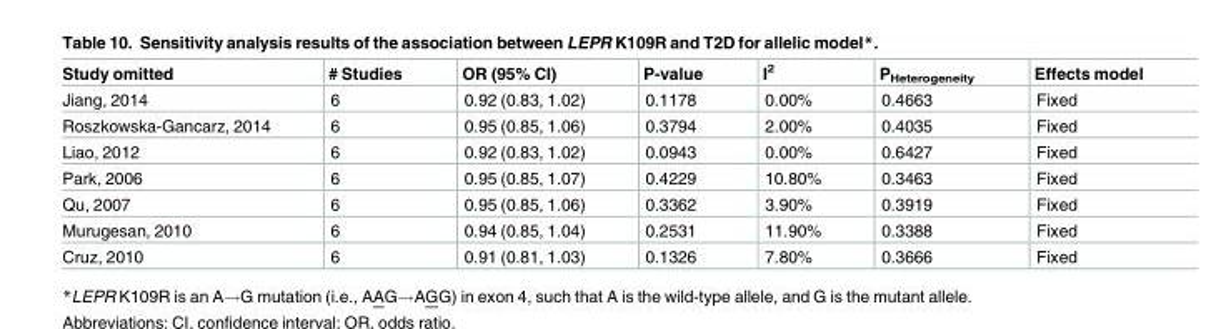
<table><thead><tr><td>Study omitted</td><td># Studies</td><td>OR (95% CI)</td><td>P-value</td><td>I<sup>2</sup></td><td>P<sub>Heterogeneity</sub></td><td>Effects model</td></tr></thead><tbody><tr><td>Jiang, 2014</td><td>6</td><td>0.92 (0.83, 1.02)</td><td>0.1178</td><td>0.00%</td><td>0.4663</td><td>Fixed</td></tr><tr><td>Roszkowska-Gancarz, 2014</td><td>6</td><td>0.95 (0.85, 1.06)</td><td>0.3794</td><td>2.00%</td><td>0.4035</td><td>Fixed</td></tr><tr><td>Liao, 2012</td><td>6</td><td>0.92 (0.83, 1.02)</td><td>0.0943</td><td>0.00%</td><td>0.6427</td><td>Fixed</td></tr><tr><td>Park, 2006</td><td>6</td><td>0.95 (0.85, 1.07)</td><td>0.4229</td><td>10.80%</td><td>0.3463</td><td>Fixed</td></tr><tr><td>Qu, 2007</td><td>6</td><td>0.95 (0.85, 1.06)</td><td>0.3362</td><td>3.90%</td><td>0.3919</td><td>Fixed</td></tr><tr><td>Murugesan, 2010</td><td>6</td><td>0.94 (0.85, 1.04)</td><td>0.2531</td><td>11.90%</td><td>0.3388</td><td>Fixed</td></tr><tr><td>Cruz, 2010</td><td>6</td><td>0.91 (0.81, 1.03)</td><td>0.1326</td><td>7.80%</td><td>0.3666</td><td>Fixed</td></tr></tbody></table>